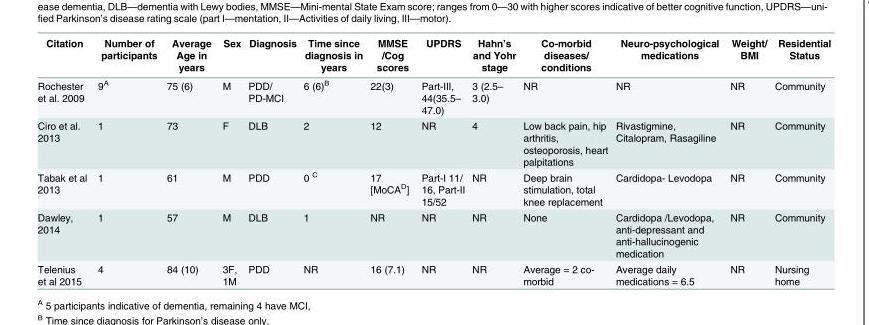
<table><thead><tr><td>Citation</td><td>Number of participants</td><td>Average Age in years</td><td>Sex</td><td>Diagnosis</td><td>Time since diagnosis in years</td><td>MMSE /Cog scores</td><td>UPDRS</td><td>Hahn’s and Yohr stage</td><td>Co-morbid diseases/ conditions</td><td>Neuro-psychological medications</td><td>Weight/ BMI</td><td>Residential Status</td></tr></thead><tbody><tr><td>Rochester et al. 2009</td><td>9<sup>A</sup></td><td>75 (6)</td><td>M</td><td>PDD/ PD-MCI</td><td>6 (6)<sup>B</sup></td><td>22(3)</td><td>Part-III, 44(35.5– 47.0)</td><td>3 (2.5– 3.0)</td><td>NR</td><td>NR</td><td>NR</td><td>Community</td></tr><tr><td>Ciro et al. 2013</td><td>1</td><td>73</td><td>F</td><td>DLB</td><td>2</td><td>12</td><td>NR</td><td>4</td><td>Low back pain, hip arthritis, osteoporosis, heart palpitations</td><td>Rivastigmine, Citalopram, Rasagiline</td><td>NR</td><td>Community</td></tr><tr><td>Tabak et al 2013</td><td>1</td><td>61</td><td>M</td><td>PDD</td><td>0 <sup>C</sup></td><td>17 [MoCA<sup>D</sup>]</td><td>Part-I 11/ 16, Part-II 15/52</td><td>NR</td><td>Deep brain stimulation, total knee replacement</td><td>Cardidopa- Levodopa</td><td>NR</td><td>Community</td></tr><tr><td>Dawley, 2014</td><td>1</td><td>57</td><td>M</td><td>DLB</td><td>1</td><td>NR</td><td>NR</td><td>NR</td><td>None</td><td>Cardidopa /Levodopa, anti-depressant and anti-hallucinogenic medication</td><td>NR</td><td>Community</td></tr><tr><td>Telenius et al 2015</td><td>4</td><td>84 (10)</td><td>3F, 1M</td><td>PDD</td><td>NR</td><td>16 (7.1)</td><td>NR</td><td>NR</td><td>Average = 2 co- morbid</td><td>Average daily medications = 6.5</td><td>NR</td><td>Nursing home</td></tr></tbody></table>